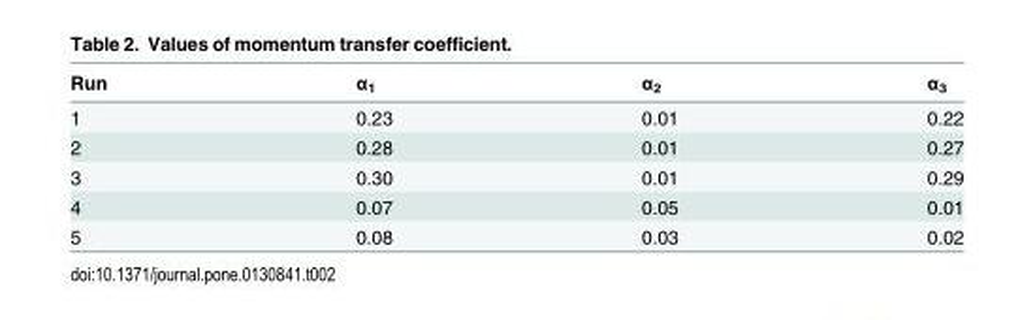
<table><thead><tr><td>Run</td><td>α<sub>1</sub></td><td>α<sub>2</sub></td><td>α<sub>3</sub></td></tr></thead><tbody><tr><td>1</td><td>0.23</td><td>0.01</td><td>0.22</td></tr><tr><td>2</td><td>0.28</td><td>0.01</td><td>0.27</td></tr><tr><td>3</td><td>0.30</td><td>0.01</td><td>0.29</td></tr><tr><td>4</td><td>0.07</td><td>0.05</td><td>0.01</td></tr><tr><td>5</td><td>0.08</td><td>0.03</td><td>0.02</td></tr></tbody></table>